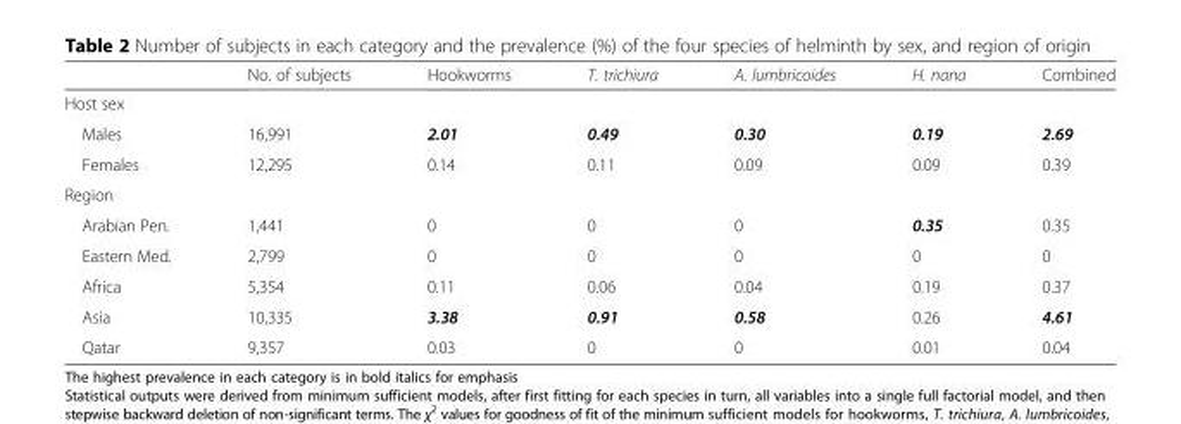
<table><thead><tr><td></td><td>No. of subjects</td><td>Hookworms</td><td>T. trichiura</td><td>A. lumbricoides</td><td>H. nana</td><td>Combined</td></tr></thead><tbody><tr><td colspan="7">Host sex</td></tr><tr><td>Males</td><td>16,991</td><td>2.01</td><td>0.49</td><td>0.30</td><td>0.19</td><td>2.69</td></tr><tr><td>Females</td><td>12,295</td><td>0.14</td><td>0.11</td><td>0.09</td><td>0.09</td><td>0.39</td></tr><tr><td colspan="7">Region</td></tr><tr><td>Arabian Pen.</td><td>1,441</td><td>0</td><td>0</td><td>0</td><td>0.35</td><td>0.35</td></tr><tr><td>Eastern Med.</td><td>2,799</td><td>0</td><td>0</td><td>0</td><td>0</td><td>0</td></tr><tr><td>Africa</td><td>5,354</td><td>0.11</td><td>0.06</td><td>0.04</td><td>0.19</td><td>0.37</td></tr><tr><td>Asia</td><td>10,335</td><td>3.38</td><td>0.91</td><td>0.58</td><td>0.26</td><td>4.61</td></tr><tr><td>Qatar</td><td>9,357</td><td>0.03</td><td>0</td><td>0</td><td>0.01</td><td>0.04</td></tr></tbody></table>